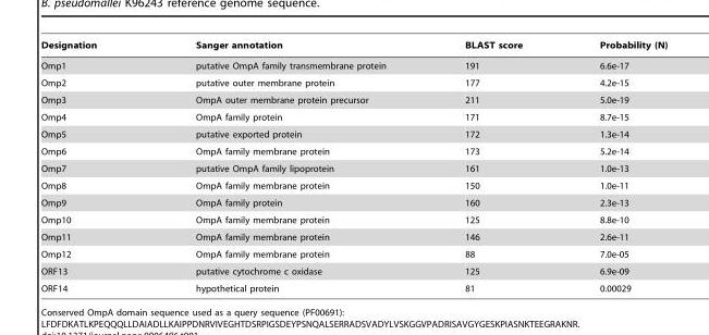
<table><thead><tr><td>Designation</td><td>Sanger annotation</td><td>BLAST score</td><td>Probability (N)</td></tr></thead><tbody><tr><td>Omp1</td><td>putative OmpA family transmembrane protein</td><td>191</td><td>6.6e-17</td></tr><tr><td>Omp2</td><td>putative outer membrane protein</td><td>177</td><td>4.2e-15</td></tr><tr><td>Omp3</td><td>OmpA outer membrane protein precursor</td><td>211</td><td>5.0e-19</td></tr><tr><td>Omp4</td><td>OmpA family protein</td><td>171</td><td>8.7e-15</td></tr><tr><td>Omp5</td><td>putative exported protein</td><td>172</td><td>1.3e-14</td></tr><tr><td>Omp6</td><td>OmpA family membrane protein</td><td>173</td><td>5.2e-14</td></tr><tr><td>Omp7</td><td>putative OmpA family lipoprotein</td><td>161</td><td>1.0e-13</td></tr><tr><td>Omp8</td><td>OmpA family membrane protein</td><td>150</td><td>1.0e-11</td></tr><tr><td>Omp9</td><td>OmpA family protein</td><td>160</td><td>2.3e-13</td></tr><tr><td>Omp10</td><td>OmpA family membrane protein</td><td>125</td><td>8.8e-10</td></tr><tr><td>Omp11</td><td>OmpA family membrane protein</td><td>146</td><td>2.6e-11</td></tr><tr><td>Omp12</td><td>OmpA family membrane protein</td><td>88</td><td>7.0e-05</td></tr><tr><td>ORF13</td><td>putative cytochrome c oxidase</td><td>125</td><td>6.9e-09</td></tr><tr><td>ORF14</td><td>hypothetical protein</td><td>81</td><td>0.00029</td></tr></tbody></table>